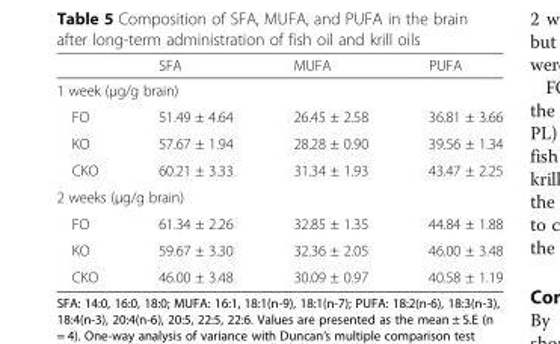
<table><thead><tr><td></td><td>SFA</td><td>MUFA</td><td>PUFA</td></tr></thead><tbody><tr><td colspan="4">1 week (μg/g brain)</td></tr><tr><td>FO</td><td>51.49 ± 4.64</td><td>26.45 ± 2.58</td><td>36.81 ± 3.66</td></tr><tr><td>KO</td><td>57.67 ± 1.94</td><td>28.28 ± 0.90</td><td>39.56 ± 1.34</td></tr><tr><td>CKO</td><td>60.21 ± 3.33</td><td>31.34 ± 1.93</td><td>43.47 ± 2.25</td></tr><tr><td colspan="4">2 weeks (μg/g brain)</td></tr><tr><td>FO</td><td>61.34 ± 2.26</td><td>32.85 ± 1.35</td><td>44.84 ± 1.88</td></tr><tr><td>KO</td><td>59.67 ± 3.30</td><td>32.36 ± 2.05</td><td>46.00 ± 3.48</td></tr><tr><td>CKO</td><td>46.00 ± 3.48</td><td>30.09 ± 0.97</td><td>40.58 ± 1.19</td></tr></tbody></table>